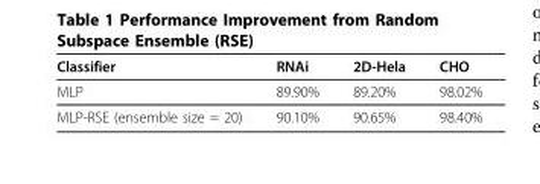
<table><thead><tr><td>Classifier</td><td>RNAi</td><td>2D-Hela</td><td>CHO</td></tr></thead><tbody><tr><td>MLP</td><td>89.90%</td><td>89.20%</td><td>98.02%</td></tr><tr><td>MLP-RSE (ensemble size = 20)</td><td>90.10%</td><td>90.65%</td><td>98.40%</td></tr></tbody></table>